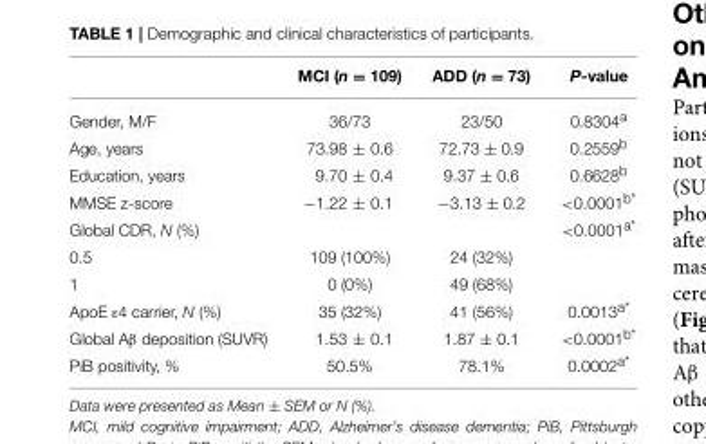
<table><thead><tr><td></td><td>MCI (n = 109)</td><td>ADD (n = 73)</td><td>P-value</td></tr></thead><tbody><tr><td>Gender, M/F</td><td>36/73</td><td>23/50</td><td>0.8304<sup>a</sup></td></tr><tr><td>Age, years</td><td>73.98 ± 0.6</td><td>72.73 ± 0.9</td><td>0.2559<sup>b</sup></td></tr><tr><td>Education, years</td><td>9.70 ± 0.4</td><td>9.37 ± 0.6</td><td>0.6628<sup>b</sup></td></tr><tr><td>MMSE z-score</td><td>−1.22 ± 0.1</td><td>−3.13 ± 0.2</td><td>&lt;0.0001<sup>b*</sup></td></tr><tr><td>Global CDR, N (%)</td><td></td><td></td><td>&lt;0.0001<sup>a*</sup></td></tr><tr><td>0.5</td><td>109 (100%)</td><td>24 (32%)</td><td></td></tr><tr><td>1</td><td>0 (0%)</td><td>49 (68%)</td><td></td></tr><tr><td>ApoE ε4 carrier, N (%)</td><td>35 (32%)</td><td>41 (56%)</td><td>0.0013<sup>a*</sup></td></tr><tr><td>Global Aβ deposition (SUVR)</td><td>1.53 ± 0.1</td><td>1.87 ± 0.1</td><td>&lt;0.0001<sup>b*</sup></td></tr><tr><td>PiB positivity, %</td><td>50.5%</td><td>78.1%</td><td>0.0002<sup>a*</sup></td></tr></tbody></table>